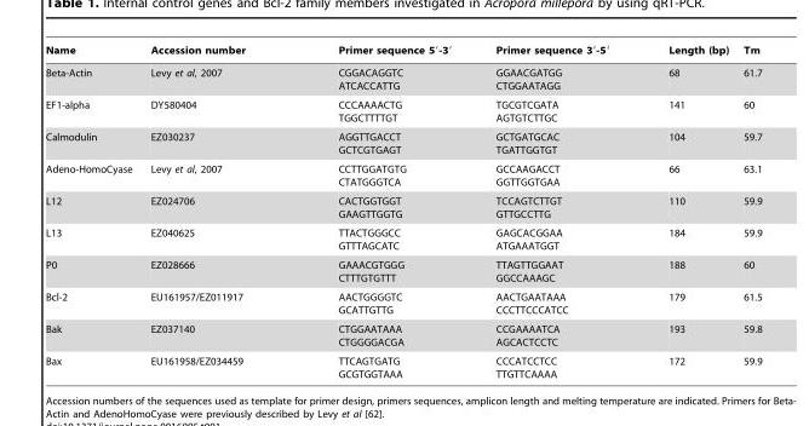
<table><thead><tr><td>Name</td><td>Accession number</td><td>Primer sequence 5′-3′</td><td>Primer sequence 3′-5′</td><td>Length (bp)</td><td>Tm</td></tr></thead><tbody><tr><td>Beta-Actin</td><td>Levy et al, 2007</td><td>CGGACAGGTC ATCACCATTG</td><td>GGAACGATGG CTGGAATAGG</td><td>68</td><td>61.7</td></tr><tr><td>EF1-alpha</td><td>DY580404</td><td>CCCAAAACTG TGGCTTTTGT</td><td>TGCGTCGATA AGTGTCTTGC</td><td>141</td><td>60</td></tr><tr><td>Calmodulin</td><td>EZ030237</td><td>AGGTTGACCT GCTCGTGAGT</td><td>GCTGATGCAC TGATTGGTGT</td><td>104</td><td>59.7</td></tr><tr><td>Adeno-HomoCyase</td><td>Levy et al, 2007</td><td>CCTTGGATGTG CTATGGGTCA</td><td>GCCAAGACCT GGTTGGTGAA</td><td>66</td><td>63.1</td></tr><tr><td>L12</td><td>EZ024706</td><td>CACTGGTGGT GAAGTTGGTG</td><td>TCCAGTCTTGT GTTGCCTTG</td><td>110</td><td>59.9</td></tr><tr><td>L13</td><td>EZ040625</td><td>TTACTGGGCC GTTTAGCATC</td><td>GAGCACGGAA ATGAAATGGT</td><td>184</td><td>59.9</td></tr><tr><td>P0</td><td>EZ028666</td><td>GAAACGTGGG CTTTGTGTTT</td><td>TTAGTTGGAAT GGCCAAAGC</td><td>188</td><td>60</td></tr><tr><td>Bcl-2</td><td>EU161957/EZ011917</td><td>AACTGGGGTC GCATTGTTG</td><td>AACTGAATAAA CCCTTCCCATCC</td><td>179</td><td>61.5</td></tr><tr><td>Bak</td><td>EZ037140</td><td>CTGGAATAAA CTGGGGACGA</td><td>CCGAAAATCA AGCACTCCTC</td><td>193</td><td>59.8</td></tr><tr><td>Bax</td><td>EU161958/EZ034459</td><td>TTCAGTGATG GCGTGGTAAA</td><td>CCCATCCTCC TTGTTCAAAA</td><td>172</td><td>59.9</td></tr></tbody></table>